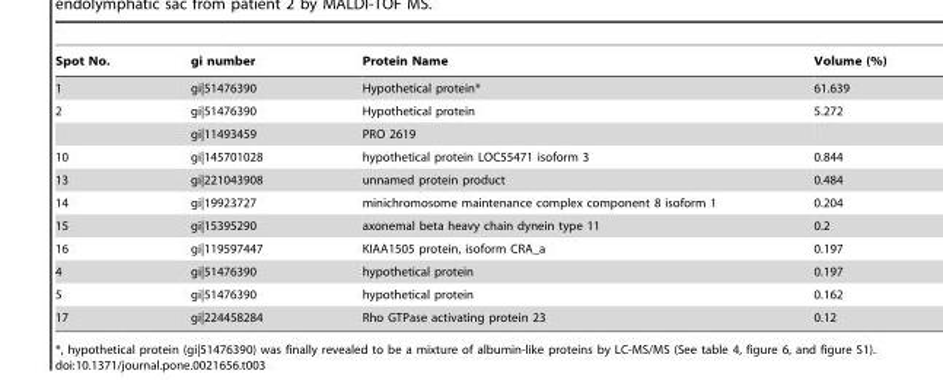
<table><thead><tr><td>Spot No.</td><td>gi number</td><td>Protein Name</td><td>Volume (%)</td></tr></thead><tbody><tr><td>1</td><td>gi|51476390</td><td>Hypothetical protein*</td><td>61.639</td></tr><tr><td rowspan="2">2</td><td>gi|51476390</td><td>Hypothetical protein</td><td>5.272</td></tr><tr><td>gi|11493459</td><td>PRO 2619</td><td></td></tr><tr><td>10</td><td>gi|145701028</td><td>hypothetical protein LOC55471 isoform 3</td><td>0.844</td></tr><tr><td>13</td><td>gi|221043908</td><td>unnamed protein product</td><td>0.484</td></tr><tr><td>14</td><td>gi|19923727</td><td>minichromosome maintenance complex component 8 isoform 1</td><td>0.204</td></tr><tr><td>15</td><td>gi|15395290</td><td>axonemal beta heavy chain dynein type 11</td><td>0.2</td></tr><tr><td>16</td><td>gi|119597447</td><td>KIAA1505 protein, isoform CRA_a</td><td>0.197</td></tr><tr><td>4</td><td>gi|51476390</td><td>hypothetical protein</td><td>0.197</td></tr><tr><td>5</td><td>gi|51476390</td><td>hypothetical protein</td><td>0.162</td></tr><tr><td>17</td><td>gi|224458284</td><td>Rho GTPase activating protein 23</td><td>0.12</td></tr></tbody></table>